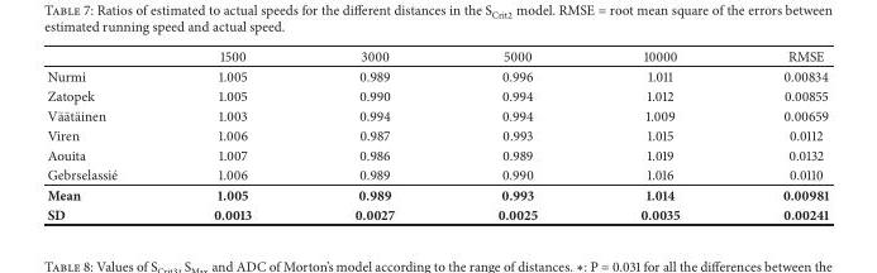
<table><thead><tr><td></td><td>1500</td><td>3000</td><td>5000</td><td>10000</td><td>RMSE</td></tr></thead><tbody><tr><td>Nurmi</td><td>1.005</td><td>0.989</td><td>0.996</td><td>1.011</td><td>0.00834</td></tr><tr><td>Zatopek</td><td>1.005</td><td>0.990</td><td>0.994</td><td>1.012</td><td>0.00855</td></tr><tr><td>V¨a¨at¨ainen</td><td>1.003</td><td>0.994</td><td>0.994</td><td>1.009</td><td>0.00659</td></tr><tr><td>Viren</td><td>1.006</td><td>0.987</td><td>0.993</td><td>1.015</td><td>0.0112</td></tr><tr><td>Aouita</td><td>1.007</td><td>0.986</td><td>0.989</td><td>1.019</td><td>0.0132</td></tr><tr><td>Gebrselassi´e</td><td>1.006</td><td>0.989</td><td>0.990</td><td>1.016</td><td>0.0110</td></tr><tr><td>Mean</td><td>1.005</td><td>0.989</td><td>0.993</td><td>1.014</td><td>0.00981</td></tr><tr><td>SD</td><td>0.0013</td><td>0.0027</td><td>0.0025</td><td>0.0035</td><td>0.00241</td></tr></tbody></table>